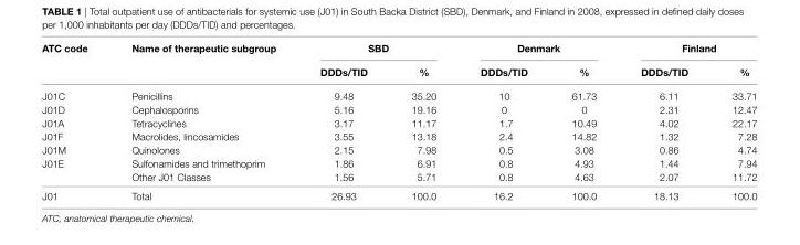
<table><thead><tr><td rowspan="2">aTc code</td><td rowspan="2">name of therapeutic subgroup</td><td colspan="2">sBD</td><td colspan="2">Denmark</td><td colspan="2">Finland</td></tr><tr><td>DDDs/TiD</td><td>%</td><td>DDDs/TiD</td><td>%</td><td>DDDs/TiD</td><td>%</td></tr></thead><tbody><tr><td>J01C</td><td>Penicillins</td><td>9.48</td><td>35.20</td><td>10</td><td>61.73</td><td>6.11</td><td>33.71</td></tr><tr><td>J01D</td><td>Cephalosporins</td><td>5.16</td><td>19.16</td><td>0</td><td>0</td><td>2.31</td><td>12.47</td></tr><tr><td>J01A</td><td>Tetracyclines</td><td>3.17</td><td>11.17</td><td>1.7</td><td>10.49</td><td>4.02</td><td>22.17</td></tr><tr><td>J01F</td><td>Macrolides, lincosamides</td><td>3.55</td><td>13.18</td><td>2.4</td><td>14.82</td><td>1.32</td><td>7.28</td></tr><tr><td>J01M</td><td>Quinolones</td><td>2.15</td><td>7.98</td><td>0.5</td><td>3.08</td><td>0.86</td><td>4.74</td></tr><tr><td rowspan="2">J01E</td><td>Sulfonamides and trimethoprim</td><td>1.86</td><td>6.91</td><td>0.8</td><td>4.93</td><td>1.44</td><td>7.94</td></tr><tr><td>Other J01 Classes</td><td>1.56</td><td>5.71</td><td>0.8</td><td>4.63</td><td>2.07</td><td>11.72</td></tr><tr><td>J01</td><td>Total</td><td>26.93</td><td>100.0</td><td>16.2</td><td>100.0</td><td>18.13</td><td>100.0</td></tr></tbody></table>